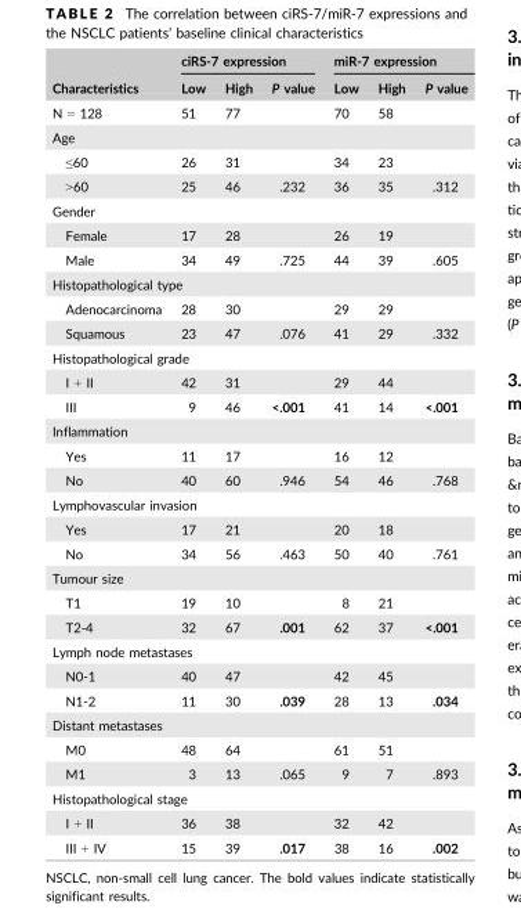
<table><thead><tr><td rowspan="2">Characteristics</td><td colspan="3">ciRS-7 expression</td><td colspan="3">miR-7 expression</td></tr><tr><td>Low</td><td>High</td><td>P value</td><td>Low</td><td>High</td><td>P value</td></tr></thead><tbody><tr><td>N = 128</td><td>51</td><td>77</td><td></td><td>70</td><td>58</td><td></td></tr><tr><td colspan="7">Age</td></tr><tr><td>≤60</td><td>26</td><td>31</td><td></td><td>34</td><td>23</td><td></td></tr><tr><td>&gt;60</td><td>25</td><td>46</td><td>.232</td><td>36</td><td>35</td><td>.312</td></tr><tr><td colspan="7">Gender</td></tr><tr><td>Female</td><td>17</td><td>28</td><td></td><td>26</td><td>19</td><td></td></tr><tr><td>Male</td><td>34</td><td>49</td><td>.725</td><td>44</td><td>39</td><td>.605</td></tr><tr><td colspan="7">Histopathological type</td></tr><tr><td>Adenocarcinoma</td><td>28</td><td>30</td><td></td><td>29</td><td>29</td><td></td></tr><tr><td>Squamous</td><td>23</td><td>47</td><td>.076</td><td>41</td><td>29</td><td>.332</td></tr><tr><td colspan="7">Histopathological grade</td></tr><tr><td>I + II</td><td>42</td><td>31</td><td></td><td>29</td><td>44</td><td></td></tr><tr><td>III</td><td>9</td><td>46</td><td>&lt;.001</td><td>41</td><td>14</td><td>&lt;.001</td></tr><tr><td colspan="7">Inflammation</td></tr><tr><td>Yes</td><td>11</td><td>17</td><td></td><td>16</td><td>12</td><td></td></tr><tr><td>No</td><td>40</td><td>60</td><td>.946</td><td>54</td><td>46</td><td>.768</td></tr><tr><td colspan="7">Lymphovascular invasion</td></tr><tr><td>Yes</td><td>17</td><td>21</td><td></td><td>20</td><td>18</td><td></td></tr><tr><td>No</td><td>34</td><td>56</td><td>.463</td><td>50</td><td>40</td><td>.761</td></tr><tr><td colspan="7">Tumour size</td></tr><tr><td>T1</td><td>19</td><td>10</td><td></td><td>8</td><td>21</td><td></td></tr><tr><td>T2-4</td><td>32</td><td>67</td><td>.001</td><td>62</td><td>37</td><td>&lt;.001</td></tr><tr><td colspan="7">Lymph node metastases</td></tr><tr><td>N0-1</td><td>40</td><td>47</td><td></td><td>42</td><td>45</td><td></td></tr><tr><td>N1-2</td><td>11</td><td>30</td><td>.039</td><td>28</td><td>13</td><td>.034</td></tr><tr><td colspan="7">Distant metastases</td></tr><tr><td>M0</td><td>48</td><td>64</td><td></td><td>61</td><td>51</td><td></td></tr><tr><td>M1</td><td>3</td><td>13</td><td>.065</td><td>9</td><td>7</td><td>.893</td></tr><tr><td colspan="7">Histopathological stage</td></tr><tr><td>I + II</td><td>36</td><td>38</td><td></td><td>32</td><td>42</td><td></td></tr><tr><td>III + IV</td><td>15</td><td>39</td><td>.017</td><td>38</td><td>16</td><td>.002</td></tr></tbody></table>